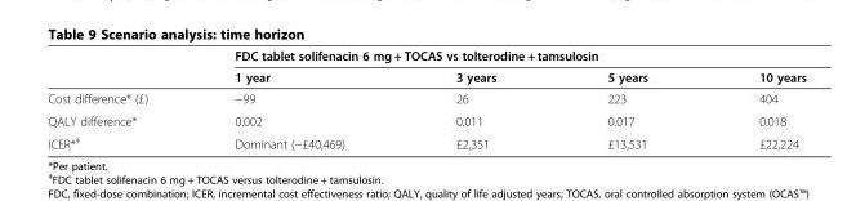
<table><thead><tr><td rowspan="2"></td><td colspan="4">FDC tablet solifenacin 6 mg + TOCAS vs tolterodine + tamsulosin</td></tr><tr><td>1 year</td><td>3 years</td><td>5 years</td><td>10 years</td></tr></thead><tbody><tr><td>Cost difference* (£)</td><td>−99</td><td>26</td><td>223</td><td>404</td></tr><tr><td>QALY difference*</td><td>0.002</td><td>0.011</td><td>0.017</td><td>0.018</td></tr><tr><td>ICER*<sup>‡</sup></td><td>Dominant (−£40,469)</td><td>£2,351</td><td>£13,531</td><td>£22,224</td></tr></tbody></table>